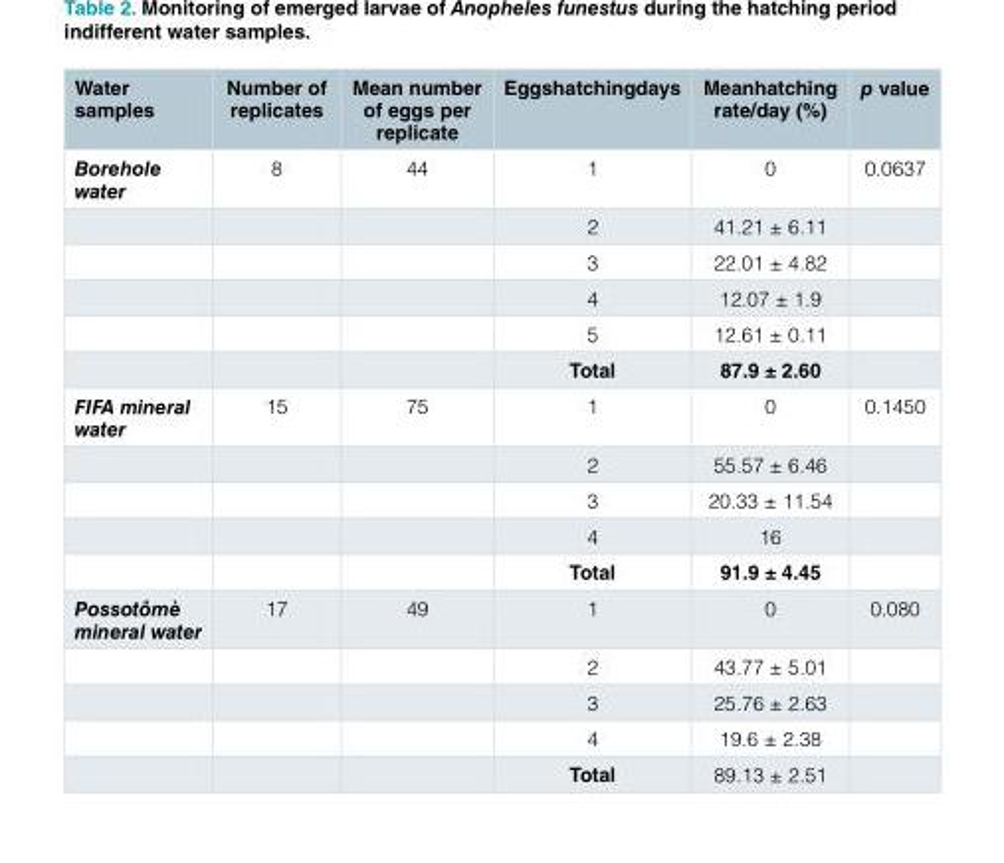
<table><thead><tr><td>Water samples</td><td>Number of replicates</td><td>Mean number of eggs per replicate</td><td>Eggshatchingdays</td><td>Meanhatching rate/day (%)</td><td>p value</td></tr></thead><tbody><tr><td rowspan="6">Borehole water</td><td>8</td><td>44</td><td>1</td><td>0</td><td>0.0637</td></tr><tr><td></td><td></td><td>2</td><td>41.21 ± 6.11</td><td></td></tr><tr><td></td><td></td><td>3</td><td>22.01 ± 4.82</td><td></td></tr><tr><td></td><td></td><td>4</td><td>12.07 ± 1.9</td><td></td></tr><tr><td></td><td></td><td>5</td><td>12.61 ± 0.11</td><td></td></tr><tr><td></td><td></td><td>Total</td><td>87.9 ± 2.60</td><td></td></tr><tr><td rowspan="5">FIFA mineral water</td><td>15</td><td>75</td><td>1</td><td>0</td><td>0.1450</td></tr><tr><td></td><td></td><td>2</td><td>55.57 ± 6.46</td><td></td></tr><tr><td></td><td></td><td>3</td><td>20.33 ± 11.54</td><td></td></tr><tr><td></td><td></td><td>4</td><td>16</td><td></td></tr><tr><td></td><td></td><td>Total</td><td>91.9 ± 4.45</td><td></td></tr><tr><td rowspan="5">Possotômè mineral water</td><td>17</td><td>49</td><td>1</td><td>0</td><td>0.080</td></tr><tr><td></td><td></td><td>2</td><td>43.77 ± 5.01</td><td></td></tr><tr><td></td><td></td><td>3</td><td>25.76 ± 2.63</td><td></td></tr><tr><td></td><td></td><td>4</td><td>19.6 ± 2.38</td><td></td></tr><tr><td></td><td></td><td>Total</td><td>89.13 ± 2.51</td><td></td></tr></tbody></table>